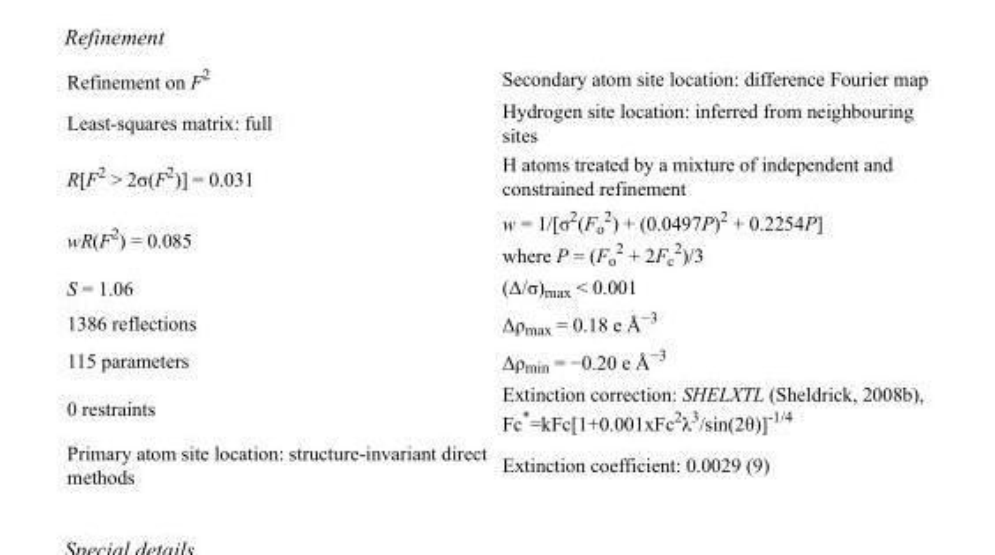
<table><tbody><tr><td>Refinement on F<sup>2</sup></td><td>Secondary atom site location: difference Fourier map</td></tr><tr><td>Least-squares matrix: full</td><td>Hydrogen site location: inferred from neighbouring sites</td></tr><tr><td>R[F<sup>2</sup> &gt; 2σ(F<sup>2</sup>)] = 0.031</td><td>H atoms treated by a mixture of independent and constrained refinement</td></tr><tr><td>wR(F<sup>2</sup>) = 0.085</td><td>w = 1/[σ<sup>2</sup>(F<sub>o</sub> <sup>2</sup>) + (0.0497P)<sup>2</sup> + 0.2254P] where P = (F<sub>o</sub> <sup>2</sup> + 2F<sub>c</sub> <sup>2</sup>)/3</td></tr><tr><td>S = 1.06</td><td>(Δ/σ)<sub>max</sub> &lt; 0.001</td></tr><tr><td>1386 reflections</td><td>Δρ<sub>max</sub> = 0.18 e Å<sup>−3</sup></td></tr><tr><td>115 parameters</td><td>Δρ<sub>min</sub> = −0.20 e Å<sup>−3</sup></td></tr><tr><td>0 restraints</td><td>Extinction correction: SHELXTL (Sheldrick, 2008b), Fc*=kFc[1+0.001xFc<sup>2</sup>λ<sup>3</sup>/sin(2θ)]<sup>-1/4</sup></td></tr><tr><td>Primary atom site location: structure-invariant direct methods</td><td>Extinction coefficient: 0.0029 (9)</td></tr></tbody></table>